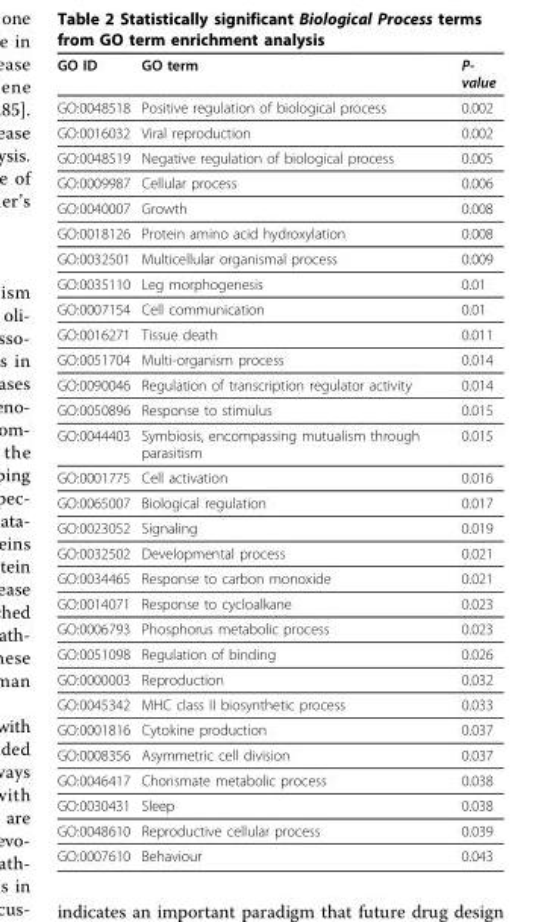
<table><thead><tr><td>GO ID</td><td>GO term</td><td>P- value</td></tr></thead><tbody><tr><td>GO:0048518</td><td>Positive regulation of biological process</td><td>0.002</td></tr><tr><td>GO:0016032</td><td>Viral reproduction</td><td>0.002</td></tr><tr><td>GO:0048519</td><td>Negative regulation of biological process</td><td>0.005</td></tr><tr><td>GO:0009987</td><td>Cellular process</td><td>0.006</td></tr><tr><td>GO:0040007</td><td>Growth</td><td>0.008</td></tr><tr><td>GO:0018126</td><td>Protein amino acid hydroxylation</td><td>0.008</td></tr><tr><td>GO:0032501</td><td>Multicellular organismal process</td><td>0.009</td></tr><tr><td>GO:0035110</td><td>Leg morphogenesis</td><td>0.01</td></tr><tr><td>GO:0007154</td><td>Cell communication</td><td>0.01</td></tr><tr><td>GO:0016271</td><td>Tissue death</td><td>0.011</td></tr><tr><td>GO:0051704</td><td>Multi-organism process</td><td>0.014</td></tr><tr><td>GO:0090046</td><td>Regulation of transcription regulator activity</td><td>0.014</td></tr><tr><td>GO:0050896</td><td>Response to stimulus</td><td>0.015</td></tr><tr><td>GO:0044403</td><td>Symbiosis, encompassing mutualism through parasitism</td><td>0.015</td></tr><tr><td>GO:0001775</td><td>Cell activation</td><td>0.016</td></tr><tr><td>GO:0065007</td><td>Biological regulation</td><td>0.017</td></tr><tr><td>GO:0023052</td><td>Signaling</td><td>0.019</td></tr><tr><td>GO:0032502</td><td>Developmental process</td><td>0.021</td></tr><tr><td>GO:0034465</td><td>Response to carbon monoxide</td><td>0.021</td></tr><tr><td>GO:0014071</td><td>Response to cycloalkane</td><td>0.023</td></tr><tr><td>GO:0006793</td><td>Phosphorus metabolic process</td><td>0.023</td></tr><tr><td>GO:0051098</td><td>Regulation of binding</td><td>0.026</td></tr><tr><td>GO:0000003</td><td>Reproduction</td><td>0.032</td></tr><tr><td>GO:0045342</td><td>MHC class II biosynthetic process</td><td>0.033</td></tr><tr><td>GO:0001816</td><td>Cytokine production</td><td>0.037</td></tr><tr><td>GO:0008356</td><td>Asymmetric cell division</td><td>0.037</td></tr><tr><td>GO:0046417</td><td>Chorismate metabolic process</td><td>0.038</td></tr><tr><td>GO:0030431</td><td>Sleep</td><td>0.038</td></tr><tr><td>GO:0048610</td><td>Reproductive cellular process</td><td>0.039</td></tr><tr><td>GO:0007610</td><td>Behaviour</td><td>0.043</td></tr></tbody></table>